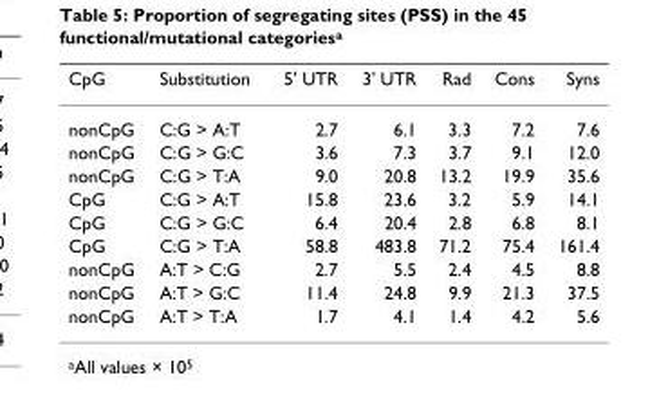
<table><thead><tr><td>CpG</td><td>Substitution</td><td>5&#x27; UTR</td><td>3&#x27; UTR</td><td>Rad</td><td>Cons</td><td>Syns</td></tr></thead><tbody><tr><td>nonCpG</td><td>C:G &gt; A:T</td><td>2.7</td><td>6.1</td><td>3.3</td><td>7.2</td><td>7.6</td></tr><tr><td>nonCpG</td><td>C:G &gt; G:C</td><td>3.6</td><td>7.3</td><td>3.7</td><td>9.1</td><td>12.0</td></tr><tr><td>nonCpG</td><td>C:G &gt; T:A</td><td>9.0</td><td>20.8</td><td>13.2</td><td>19.9</td><td>35.6</td></tr><tr><td>CpG</td><td>C:G &gt; A:T</td><td>15.8</td><td>23.6</td><td>3.2</td><td>5.9</td><td>14.1</td></tr><tr><td>CpG</td><td>C:G &gt; G:C</td><td>6.4</td><td>20.4</td><td>2.8</td><td>6.8</td><td>8.1</td></tr><tr><td>CpG</td><td>C:G &gt; T:A</td><td>58.8</td><td>483.8</td><td>71.2</td><td>75.4</td><td>161.4</td></tr><tr><td>nonCpG</td><td>A:T &gt; C:G</td><td>2.7</td><td>5.5</td><td>2.4</td><td>4.5</td><td>8.8</td></tr><tr><td>nonCpG</td><td>A:T &gt; G:C</td><td>11.4</td><td>24.8</td><td>9.9</td><td>21.3</td><td>37.5</td></tr><tr><td>nonCpG</td><td>A:T &gt; T:A</td><td>1.7</td><td>4.1</td><td>1.4</td><td>4.2</td><td>5.6</td></tr></tbody></table>